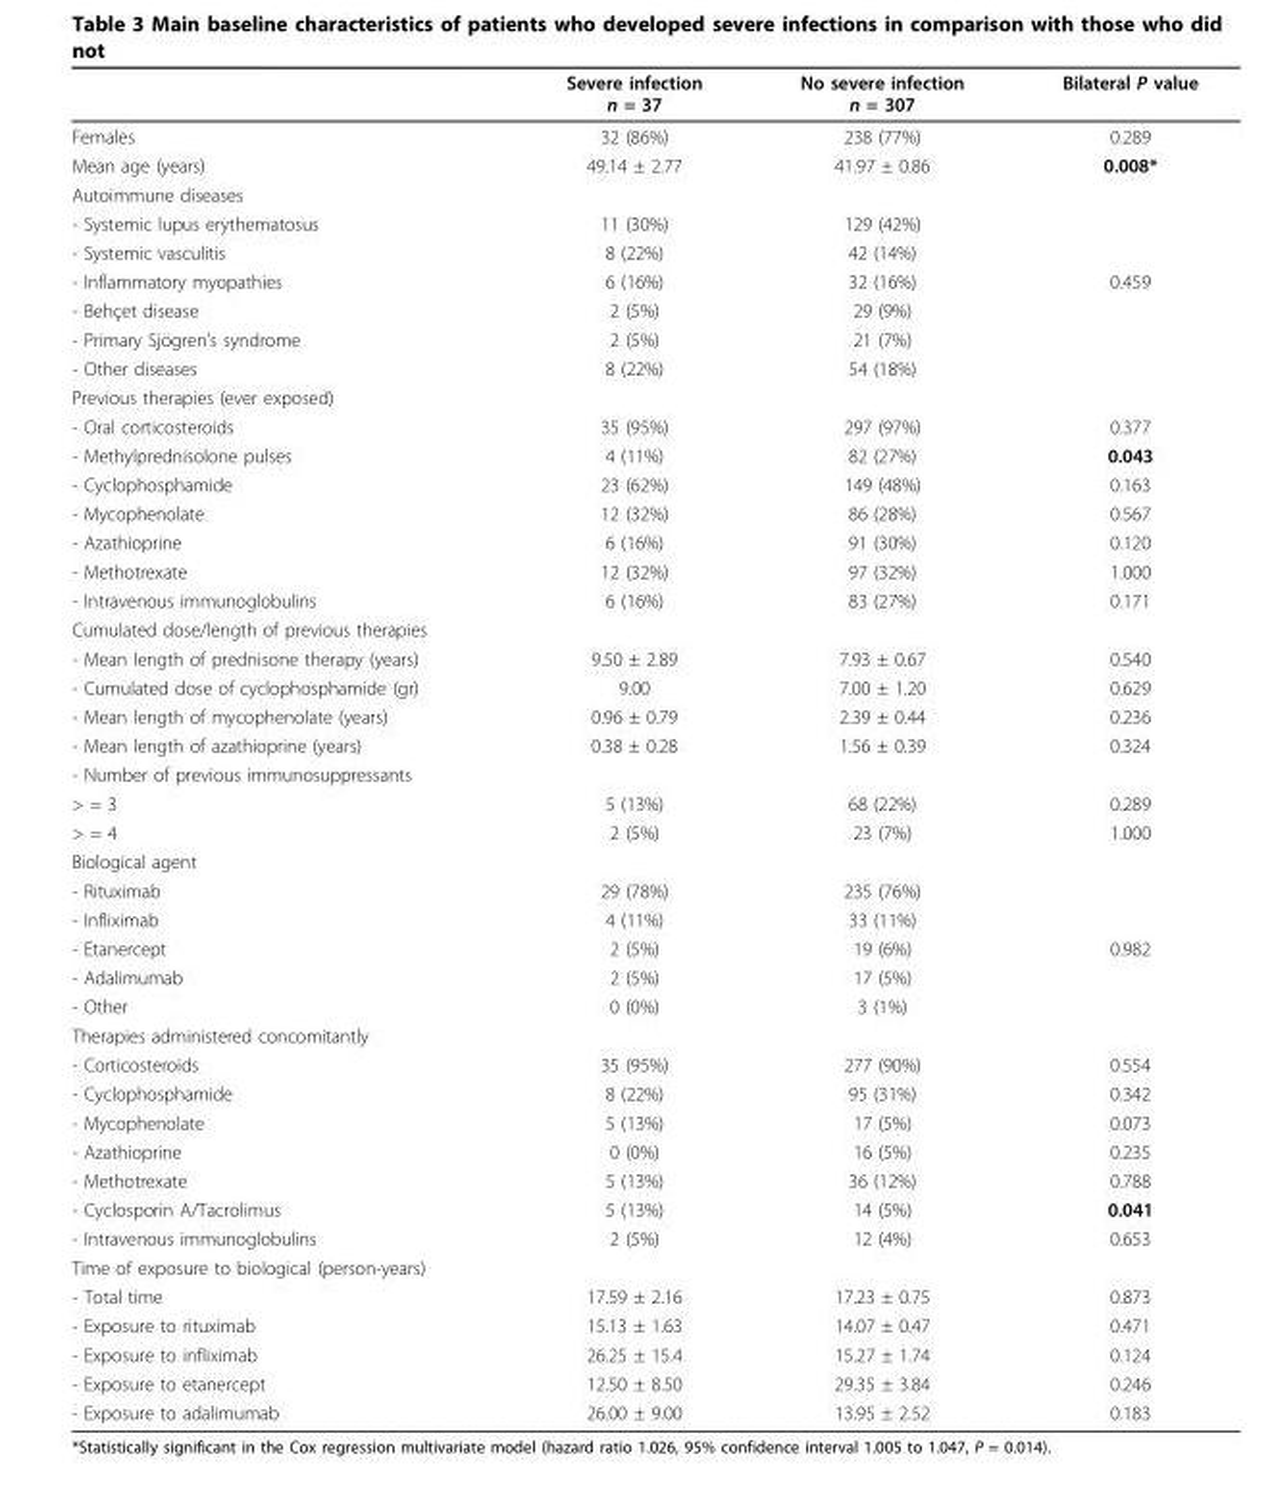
<table><thead><tr><td></td><td>Severe infection n = 37</td><td>No severe infection n = 307</td><td>Bilateral P value</td></tr></thead><tbody><tr><td>Females</td><td>32 (86%)</td><td>238 (77%)</td><td>0.289</td></tr><tr><td>Mean age (years)</td><td>49.14 ± 2.77</td><td>41.97 ± 0.86</td><td>0.008*</td></tr><tr><td colspan="4">Autoimmune diseases</td></tr><tr><td>- Systemic lupus erythematosus</td><td>11 (30%)</td><td>129 (42%)</td><td></td></tr><tr><td>- Systemic vasculitis</td><td>8 (22%)</td><td>42 (14%)</td><td></td></tr><tr><td>- Inflammatory myopathies</td><td>6 (16%)</td><td>32 (16%)</td><td>0.459</td></tr><tr><td>- Behçet disease</td><td>2 (5%)</td><td>29 (9%)</td><td></td></tr><tr><td>- Primary Sjögren’s syndrome</td><td>2 (5%)</td><td>21 (7%)</td><td></td></tr><tr><td>- Other diseases</td><td>8 (22%)</td><td>54 (18%)</td><td></td></tr><tr><td colspan="4">Previous therapies (ever exposed)</td></tr><tr><td>- Oral corticosteroids</td><td>35 (95%)</td><td>297 (97%)</td><td>0.377</td></tr><tr><td>- Methylprednisolone pulses</td><td>4 (11%)</td><td>82 (27%)</td><td>0.043</td></tr><tr><td>- Cyclophosphamide</td><td>23 (62%)</td><td>149 (48%)</td><td>0.163</td></tr><tr><td>- Mycophenolate</td><td>12 (32%)</td><td>86 (28%)</td><td>0.567</td></tr><tr><td>- Azathioprine</td><td>6 (16%)</td><td>91 (30%)</td><td>0.120</td></tr><tr><td>- Methotrexate</td><td>12 (32%)</td><td>97 (32%)</td><td>1.000</td></tr><tr><td>- Intravenous immunoglobulins</td><td>6 (16%)</td><td>83 (27%)</td><td>0.171</td></tr><tr><td colspan="4">Cumulated dose/length of previous therapies</td></tr><tr><td>- Mean length of prednisone therapy (years)</td><td>9.50 ± 2.89</td><td>7.93 ± 0.67</td><td>0.540</td></tr><tr><td>- Cumulated dose of cyclophosphamide (gr)</td><td>9.00</td><td>7.00 ± 1.20</td><td>0.629</td></tr><tr><td>- Mean length of mycophenolate (years)</td><td>0.96 ± 0.79</td><td>2.39 ± 0.44</td><td>0.236</td></tr><tr><td>- Mean length of azathioprine (years)</td><td>0.38 ± 0.28</td><td>1.56 ± 0.39</td><td>0.324</td></tr><tr><td colspan="4">- Number of previous immunosuppressants</td></tr><tr><td>&gt; = 3</td><td>5 (13%)</td><td>68 (22%)</td><td>0.289</td></tr><tr><td>&gt; = 4</td><td>2 (5%)</td><td>23 (7%)</td><td>1.000</td></tr><tr><td colspan="4">Biological agent</td></tr><tr><td>- Rituximab</td><td>29 (78%)</td><td>235 (76%)</td><td></td></tr><tr><td>- Infliximab</td><td>4 (11%)</td><td>33 (11%)</td><td></td></tr><tr><td>- Etanercept</td><td>2 (5%)</td><td>19 (6%)</td><td>0.982</td></tr><tr><td>- Adalimumab</td><td>2 (5%)</td><td>17 (5%)</td><td></td></tr><tr><td>- Other</td><td>0 (0%)</td><td>3 (1%)</td><td></td></tr><tr><td colspan="4">Therapies administered concomitantly</td></tr><tr><td>- Corticosteroids</td><td>35 (95%)</td><td>277 (90%)</td><td>0.554</td></tr><tr><td>- Cyclophosphamide</td><td>8 (22%)</td><td>95 (31%)</td><td>0.342</td></tr><tr><td>- Mycophenolate</td><td>5 (13%)</td><td>17 (5%)</td><td>0.073</td></tr><tr><td>- Azathioprine</td><td>0 (0%)</td><td>16 (5%)</td><td>0.235</td></tr><tr><td>- Methotrexate</td><td>5 (13%)</td><td>36 (12%)</td><td>0.788</td></tr><tr><td>- Cyclosporin A/Tacrolimus</td><td>5 (13%)</td><td>14 (5%)</td><td>0.041</td></tr><tr><td>- Intravenous immunoglobulins</td><td>2 (5%)</td><td>12 (4%)</td><td>0.653</td></tr><tr><td colspan="4">Time of exposure to biological (person-years)</td></tr><tr><td>- Total time</td><td>17.59 ± 2.16</td><td>17.23 ± 0.75</td><td>0.873</td></tr><tr><td>- Exposure to rituximab</td><td>15.13 ± 1.63</td><td>14.07 ± 0.47</td><td>0.471</td></tr><tr><td>- Exposure to infliximab</td><td>26.25 ± 15.4</td><td>15.27 ± 1.74</td><td>0.124</td></tr><tr><td>- Exposure to etanercept</td><td>12.50 ± 8.50</td><td>29.35 ± 3.84</td><td>0.246</td></tr><tr><td>- Exposure to adalimumab</td><td>26.00 ± 9.00</td><td>13.95 ± 2.52</td><td>0.183</td></tr></tbody></table>